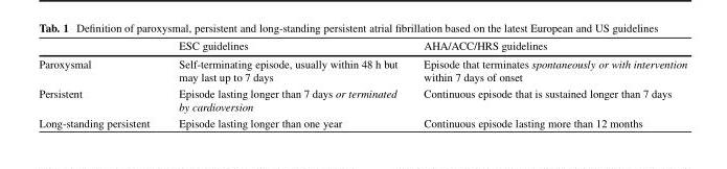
<table><thead><tr><td></td><td>ESC guidelines</td><td>AHA/ACC/HRS guidelines</td></tr></thead><tbody><tr><td>Paroxysmal</td><td>Self-terminating episode, usually within 48 h but may last up to 7 days</td><td>Episode that terminates spontaneously or with intervention within 7 days of onset</td></tr><tr><td>Persistent</td><td>Episode lasting longer than 7 days or terminated by cardioversion</td><td>Continuous episode that is sustained longer than 7 days</td></tr><tr><td>Long-standing persistent</td><td>Episode lasting longer than one year</td><td>Continuous episode lasting more than 12 months</td></tr></tbody></table>